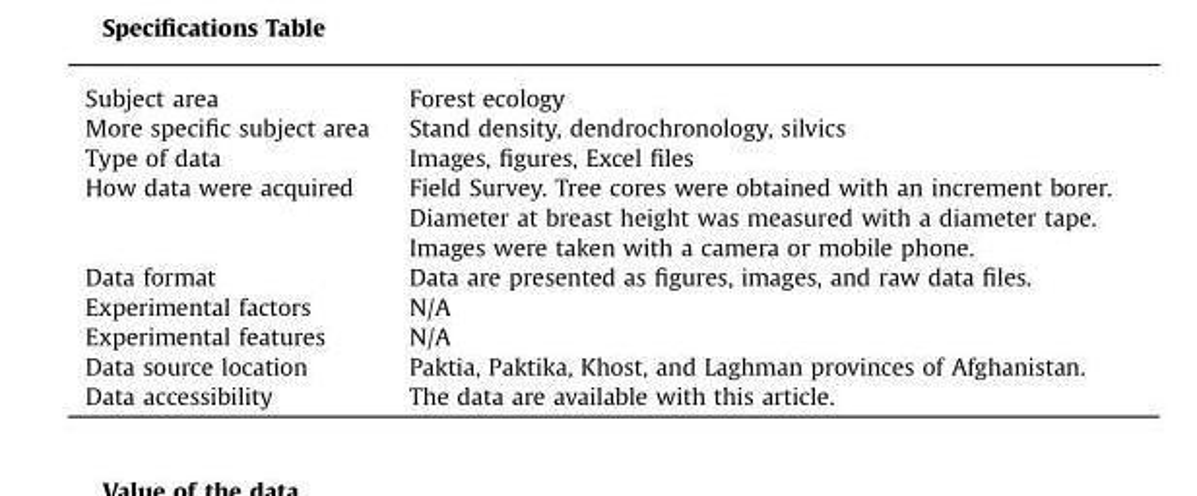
<table><tbody><tr><td>Subject area</td><td>Forest ecology</td></tr><tr><td>More specific subject area</td><td>Stand density, dendrochronology, silvics</td></tr><tr><td>Type of data</td><td>Images, figures, Excel files</td></tr><tr><td>How data were acquired</td><td>Field Survey. Tree cores were obtained with an increment borer. Diameter at breast height was measured with a diameter tape. Images were taken with a camera or mobile phone.</td></tr><tr><td>Data format</td><td>Data are presented as figures, images, and raw data files.</td></tr><tr><td>Experimental factors</td><td>N/A</td></tr><tr><td>Experimental features</td><td>N/A</td></tr><tr><td>Data source location</td><td>Paktia, Paktika, Khost, and Laghman provinces of Afghanistan.</td></tr><tr><td>Data accessibility</td><td>The data are available with this article.</td></tr></tbody></table>